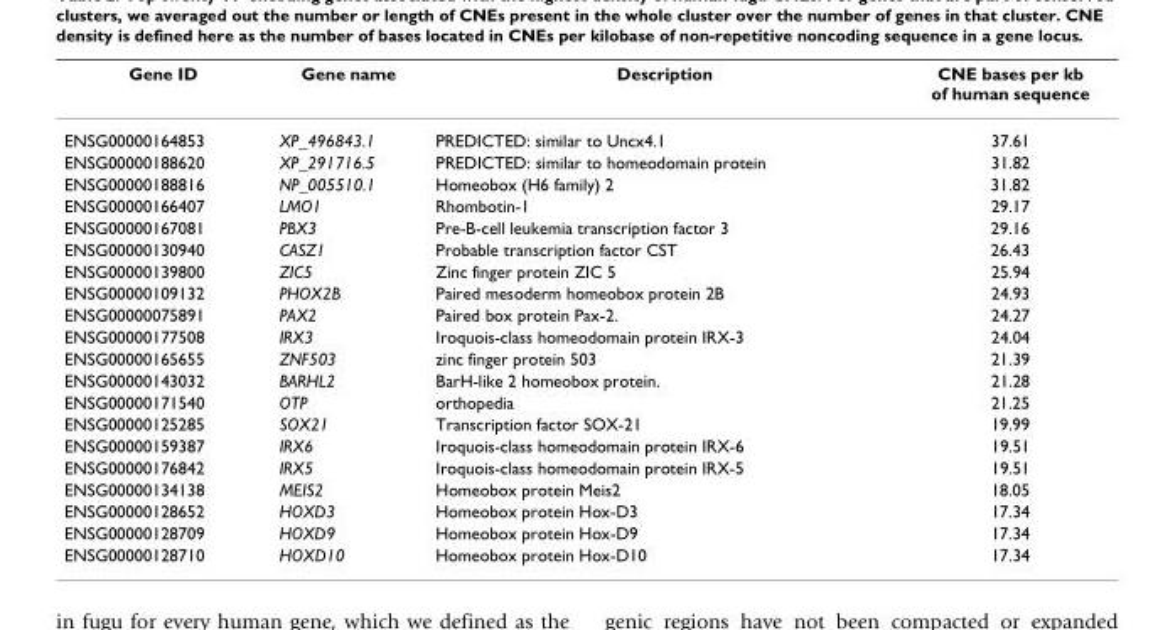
<table><thead><tr><td>Gene ID</td><td>Gene name</td><td>Description</td><td>CNE bases per kb of human sequence</td></tr></thead><tbody><tr><td>ENSG00000164853</td><td>XP_496843.1</td><td>PREDICTED: similar to Uncx4.1</td><td>37.61</td></tr><tr><td>ENSG00000188620</td><td>XP_291716.5</td><td>PREDICTED: similar to homeodomain protein</td><td>31.82</td></tr><tr><td>ENSG00000188816</td><td>NP_005510.1</td><td>Homeobox (H6 family) 2</td><td>31.82</td></tr><tr><td>ENSG00000166407</td><td>LMO1</td><td>Rhombotin-1</td><td>29.17</td></tr><tr><td>ENSG00000167081</td><td>PBX3</td><td>Pre-B-cell leukemia transcription factor 3</td><td>29.16</td></tr><tr><td>ENSG00000130940</td><td>CASZ1</td><td>Probable transcription factor CST</td><td>26.43</td></tr><tr><td>ENSG00000139800</td><td>ZIC5</td><td>Zinc finger protein ZIC 5</td><td>25.94</td></tr><tr><td>ENSG00000109132</td><td>PHOX2B</td><td>Paired mesoderm homeobox protein 2B</td><td>24.93</td></tr><tr><td>ENSG00000075891</td><td>PAX2</td><td>Paired box protein Pax-2.</td><td>24.27</td></tr><tr><td>ENSG00000177508</td><td>IRX3</td><td>Iroquois-class homeodomain protein IRX-3</td><td>24.04</td></tr><tr><td>ENSG00000165655</td><td>ZNF503</td><td>zinc finger protein 503</td><td>21.39</td></tr><tr><td>ENSG00000143032</td><td>BARHL2</td><td>BarH-like 2 homeobox protein.</td><td>21.28</td></tr><tr><td>ENSG00000171540</td><td>OTP</td><td>orthopedia</td><td>21.25</td></tr><tr><td>ENSG00000125285</td><td>SOX21</td><td>Transcription factor SOX-21</td><td>19.99</td></tr><tr><td>ENSG00000159387</td><td>IRX6</td><td>Iroquois-class homeodomain protein IRX-6</td><td>19.51</td></tr><tr><td>ENSG00000176842</td><td>IRX5</td><td>Iroquois-class homeodomain protein IRX-5</td><td>19.51</td></tr><tr><td>ENSG00000134138</td><td>MEIS2</td><td>Homeobox protein Meis2</td><td>18.05</td></tr><tr><td>ENSG00000128652</td><td>HOXD3</td><td>Homeobox protein Hox-D3</td><td>17.34</td></tr><tr><td>ENSG00000128709</td><td>HOXD9</td><td>Homeobox protein Hox-D9</td><td>17.34</td></tr><tr><td>ENSG00000128710</td><td>HOXD10</td><td>Homeobox protein Hox-D10</td><td>17.34</td></tr></tbody></table>